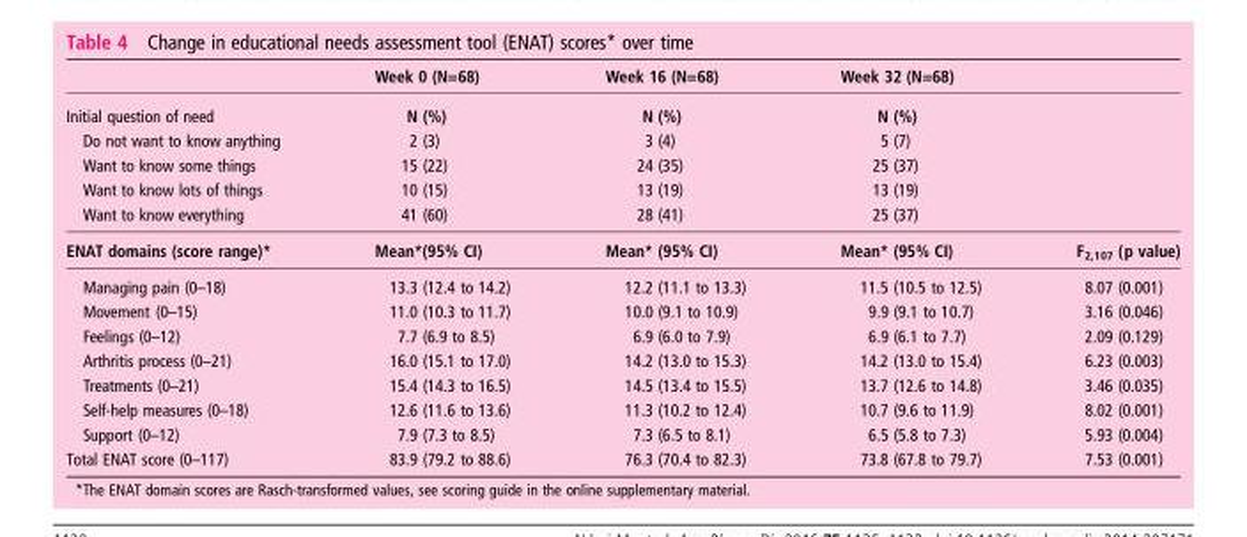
<table><thead><tr><td></td><td>Week 0 (N=68)</td><td>Week 16 (N=68)</td><td>Week 32 (N=68)</td><td></td></tr></thead><tbody><tr><td>Initial question of need</td><td>N (%)</td><td>N (%)</td><td>N (%)</td><td></td></tr><tr><td>Do not want to know anything</td><td>2 (3)</td><td>3 (4)</td><td>5 (7)</td><td></td></tr><tr><td>Want to know some things</td><td>15 (22)</td><td>24 (35)</td><td>25 (37)</td><td></td></tr><tr><td>Want to know lots of things</td><td>10 (15)</td><td>13 (19)</td><td>13 (19)</td><td></td></tr><tr><td>Want to know everything</td><td>41 (60)</td><td>28 (41)</td><td>25 (37)</td><td></td></tr><tr><td>ENAT domains (score range)*</td><td>Mean*(95% CI)</td><td>Mean* (95% CI)</td><td>Mean* (95% CI)</td><td>F<sub>2,107</sub> (p value)</td></tr><tr><td>Managing pain (0–18)</td><td>13.3 (12.4 to 14.2)</td><td>12.2 (11.1 to 13.3)</td><td>11.5 (10.5 to 12.5)</td><td>8.07 (0.001)</td></tr><tr><td>Movement (0–15)</td><td>11.0 (10.3 to 11.7)</td><td>10.0 (9.1 to 10.9)</td><td>9.9 (9.1 to 10.7)</td><td>3.16 (0.046)</td></tr><tr><td>Feelings (0–12)</td><td>7.7 (6.9 to 8.5)</td><td>6.9 (6.0 to 7.9)</td><td>6.9 (6.1 to 7.7)</td><td>2.09 (0.129)</td></tr><tr><td>Arthritis process (0–21)</td><td>16.0 (15.1 to 17.0)</td><td>14.2 (13.0 to 15.3)</td><td>14.2 (13.0 to 15.4)</td><td>6.23 (0.003)</td></tr><tr><td>Treatments (0–21)</td><td>15.4 (14.3 to 16.5)</td><td>14.5 (13.4 to 15.5)</td><td>13.7 (12.6 to 14.8)</td><td>3.46 (0.035)</td></tr><tr><td>Self-help measures (0–18)</td><td>12.6 (11.6 to 13.6)</td><td>11.3 (10.2 to 12.4)</td><td>10.7 (9.6 to 11.9)</td><td>8.02 (0.001)</td></tr><tr><td>Support (0–12)</td><td>7.9 (7.3 to 8.5)</td><td>7.3 (6.5 to 8.1)</td><td>6.5 (5.8 to 7.3)</td><td>5.93 (0.004)</td></tr><tr><td>Total ENAT score (0–117)</td><td>83.9 (79.2 to 88.6)</td><td>76.3 (70.4 to 82.3)</td><td>73.8 (67.8 to 79.7)</td><td>7.53 (0.001)</td></tr></tbody></table>